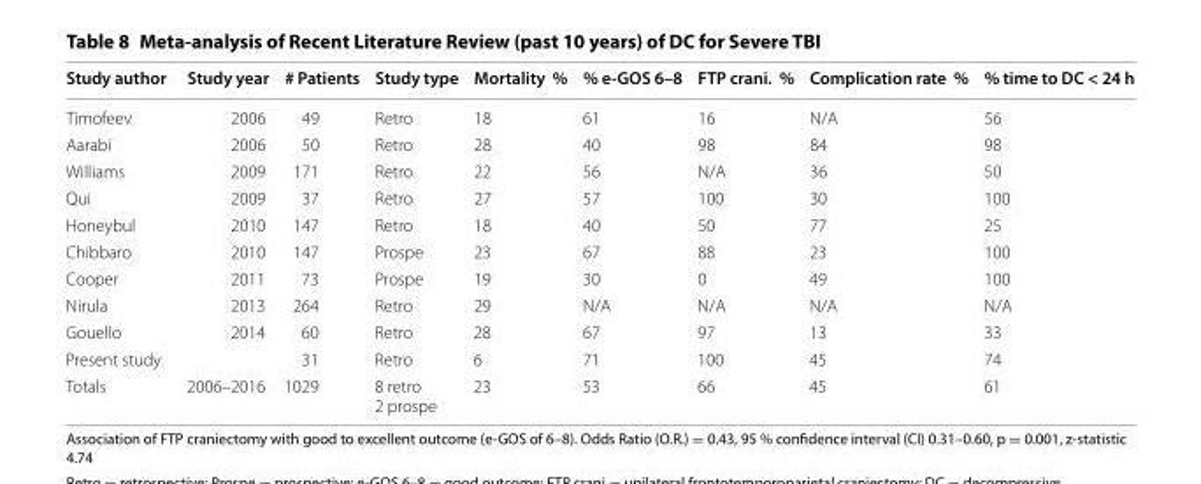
<table><thead><tr><td>Study author</td><td>Study year</td><td># Patients</td><td>Study type</td><td>Mortality %</td><td>% e-GOS 6–8</td><td>FTP crani. %</td><td>Complication rate %</td><td>% time to DC &lt; 24 h</td></tr></thead><tbody><tr><td>Timofeev</td><td>2006</td><td>49</td><td>Retro</td><td>18</td><td>61</td><td>16</td><td>N/A</td><td>56</td></tr><tr><td>Aarabi</td><td>2006</td><td>50</td><td>Retro</td><td>28</td><td>40</td><td>98</td><td>84</td><td>98</td></tr><tr><td>Williams</td><td>2009</td><td>171</td><td>Retro</td><td>22</td><td>56</td><td>N/A</td><td>36</td><td>50</td></tr><tr><td>Qui</td><td>2009</td><td>37</td><td>Retro</td><td>27</td><td>57</td><td>100</td><td>30</td><td>100</td></tr><tr><td>Honeybul</td><td>2010</td><td>147</td><td>Retro</td><td>18</td><td>40</td><td>50</td><td>77</td><td>25</td></tr><tr><td>Chibbaro</td><td>2010</td><td>147</td><td>Prospe</td><td>23</td><td>67</td><td>88</td><td>23</td><td>100</td></tr><tr><td>Cooper</td><td>2011</td><td>73</td><td>Prospe</td><td>19</td><td>30</td><td>0</td><td>49</td><td>100</td></tr><tr><td>Nirula</td><td>2013</td><td>264</td><td>Retro</td><td>29</td><td>N/A</td><td>N/A</td><td>N/A</td><td>N/A</td></tr><tr><td>Gouello</td><td>2014</td><td>60</td><td>Retro</td><td>28</td><td>67</td><td>97</td><td>13</td><td>33</td></tr><tr><td>Present study</td><td></td><td>31</td><td>Retro</td><td>6</td><td>71</td><td>100</td><td>45</td><td>74</td></tr><tr><td>Totals</td><td>2006–2016</td><td>1029</td><td>8 retro 2 prospe</td><td>23</td><td>53</td><td>66</td><td>45</td><td>61</td></tr></tbody></table>